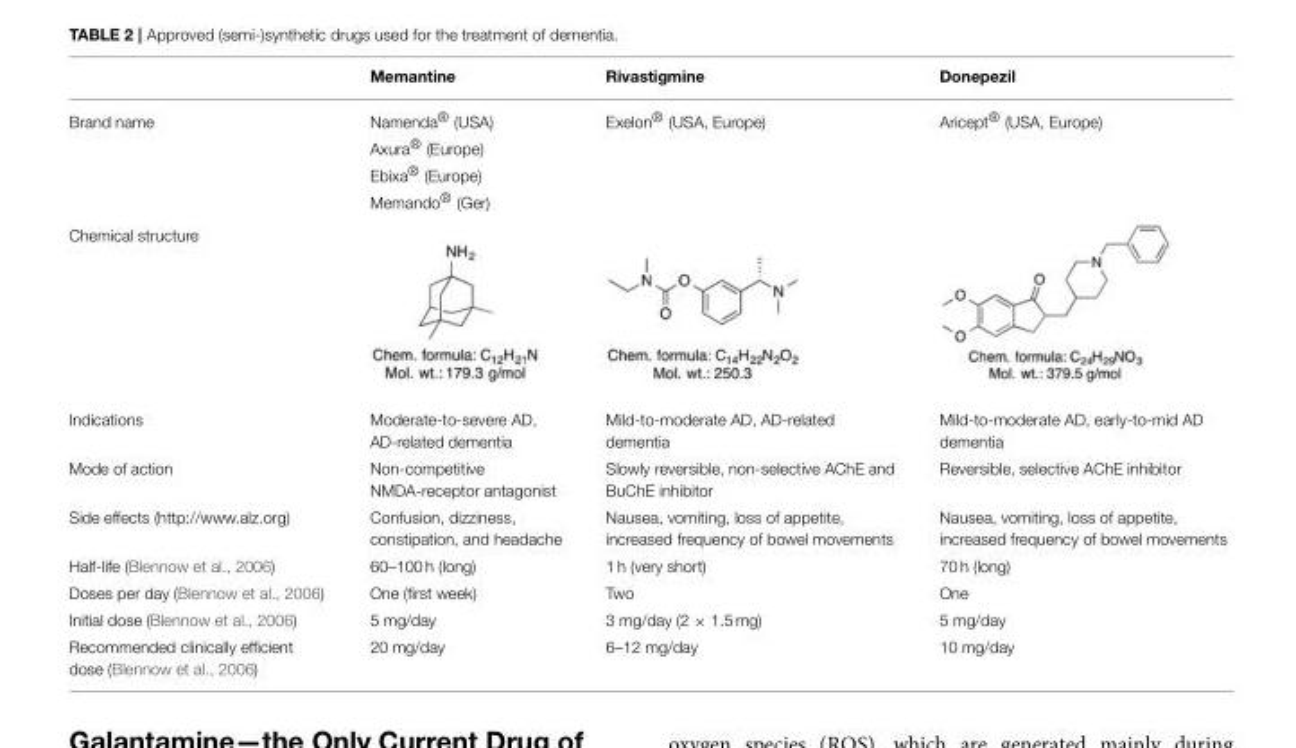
<table><thead><tr><td></td><td>Memantine</td><td>Rivastigmine</td><td>Donepezil</td></tr></thead><tbody><tr><td rowspan="4">Brand name</td><td>Namenda® (USA)</td><td>Exelon® (USA, Europe)</td><td>Aricept® (USA, Europe)</td></tr><tr><td>Axura® (Europe)</td><td></td><td></td></tr><tr><td>Ebixa® (Europe)</td><td></td><td></td></tr><tr><td>Memando® (Ger)</td><td></td><td></td></tr><tr><td colspan="4">Chemical structure</td></tr><tr><td>Indications</td><td>Moderate-to-severe AD, AD-related dementia</td><td>Mild-to-moderate AD, AD-related dementia</td><td>Mild-to-moderate AD, early-to-mid AD dementia</td></tr><tr><td>Mode of action</td><td>Non-competitive NMDA-receptor antagonist</td><td>Slowly reversible, non-selective AChE and BuChE inhibitor</td><td>Reversible, selective AChE inhibitor</td></tr><tr><td>Side effects (http://www.alz.org)</td><td>Confusion, dizziness, constipation, and headache</td><td>Nausea, vomiting, loss of appetite, increased frequency of bowel movements</td><td>Nausea, vomiting, loss of appetite, increased frequency of bowel movements</td></tr><tr><td>Half-life (Blennow et al., 2006)</td><td>60–100 h (long)</td><td>1 h (very short)</td><td>70 h (long)</td></tr><tr><td>Doses per day (Blennow et al., 2006)</td><td>One (first week)</td><td>Two</td><td>One</td></tr><tr><td>Initial dose (Blennow et al., 2006)</td><td>5 mg/day</td><td>3 mg/day (2 × 1.5 mg)</td><td>5 mg/day</td></tr><tr><td>Recommended clinically efficient dose (Blennow et al., 2006)</td><td>20 mg/day</td><td>6–12 mg/day</td><td>10 mg/day</td></tr></tbody></table>